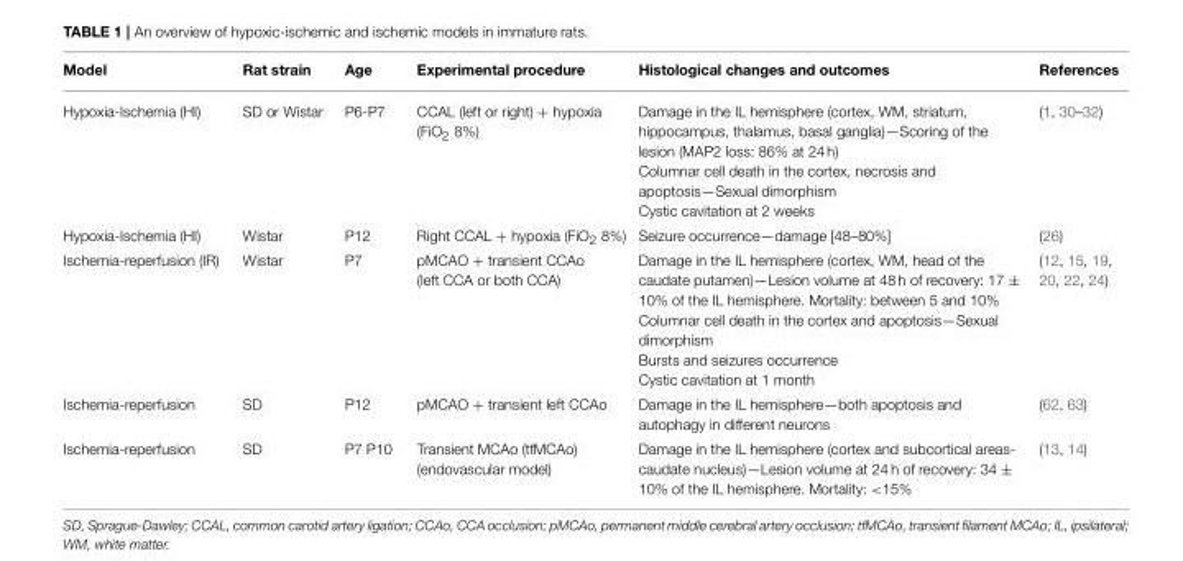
<table><thead><tr><td>Model</td><td>Rat strain</td><td>Age</td><td>Experimental procedure</td><td>Histological changes and outcomes</td><td>References</td></tr></thead><tbody><tr><td>Hypoxia-Ischemia (HI)</td><td>SD or Wistar</td><td>P6-P7</td><td>CCAL (left or right) + hypoxia (FiO<sub>2</sub> 8%)</td><td>Damage in the IL hemisphere (cortex, WM, striatum, hippocampus, thalamus, basal ganglia)—Scoring of the lesion (MAP2 loss: 86% at 24 h) Columnar cell death in the cortex, necrosis and apoptosis—Sexual dimorphism Cystic cavitation at 2 weeks</td><td>(1, 30–32)</td></tr><tr><td>Hypoxia-Ischemia (HI)</td><td>Wistar</td><td>P12</td><td>Right CCAL + hypoxia (FiO<sub>2</sub> 8%)</td><td>Seizure occurrence—damage [48–80%]</td><td>(26)</td></tr><tr><td>Ischemia-reperfusion (IR)</td><td>Wistar</td><td>P7</td><td>pMCAO + transient CCAo (left CCA or both CCA)</td><td>Damage in the IL hemisphere (cortex, WM, head of the caudate putamen)—Lesion volume at 48 h of recovery: 17 ± 10% of the IL hemisphere. Mortality: between 5 and 10% Columnar cell death in the cortex and apoptosis—Sexual dimorphism Bursts and seizures occurrence Cystic cavitation at 1 month</td><td>(12, 15, 19, 20, 22, 24)</td></tr><tr><td>Ischemia-reperfusion</td><td>SD</td><td>P12</td><td>pMCAO + transient left CCAo</td><td>Damage in the IL hemisphere—both apoptosis and autophagy in different neurons</td><td>(62, 63)</td></tr><tr><td>Ischemia-reperfusion</td><td>SD</td><td>P7 P10</td><td>Transient MCAo (tfMCAo) (endovascular model)</td><td>Damage in the IL hemisphere (cortex and subcortical areas- caudate nucleus)—Lesion volume at 24 h of recovery: 34 ± 10% of the IL hemisphere. Mortality: &lt;15%</td><td>(13, 14)</td></tr></tbody></table>